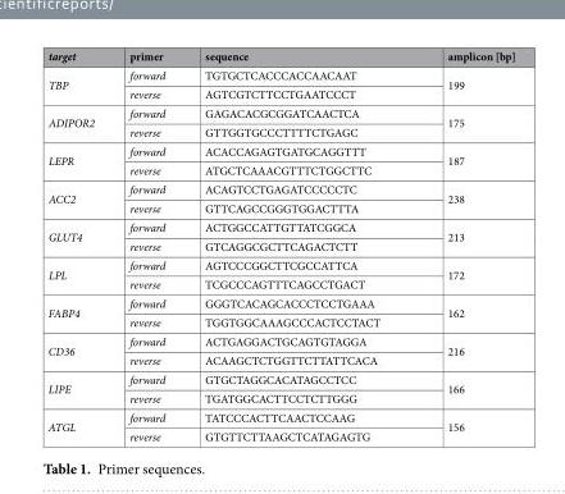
<table><thead><tr><td>target</td><td>primer</td><td>sequence</td><td>amplicon [bp]</td></tr></thead><tbody><tr><td rowspan="2">TBP</td><td>forward</td><td>TGTGCTCACCCACCAACAAT</td><td rowspan="2">199</td></tr><tr><td>reverse</td><td>AGTCGTCTTCCTGAATCCCT</td></tr><tr><td rowspan="2">ADIPOR2</td><td>forward</td><td>GAGACACGCGGATCAACTCA</td><td rowspan="2">175</td></tr><tr><td>reverse</td><td>GTTGGTGCCCTTTTCTGAGC</td></tr><tr><td rowspan="2">LEPR</td><td>forward</td><td>ACACCAGAGTGATGCAGGTTT</td><td rowspan="2">187</td></tr><tr><td>reverse</td><td>ATGCTCAAACGTTTCTGGCTTC</td></tr><tr><td rowspan="2">ACC2</td><td>forward</td><td>ACAGTCCTGAGATCCCCCTC</td><td rowspan="2">238</td></tr><tr><td>reverse</td><td>GTTCAGCCGGGTGGACTTTA</td></tr><tr><td rowspan="2">GLUT4</td><td>forward</td><td>ACTGGCCATTGTTATCGGCA</td><td rowspan="2">213</td></tr><tr><td>reverse</td><td>GTCAGGCGCTTCAGACTCTT</td></tr><tr><td rowspan="2">LPL</td><td>forward</td><td>AGTCCCGGCTTCGCCATTCA</td><td rowspan="2">172</td></tr><tr><td>reverse</td><td>TCGCCCAGTTTCAGCCTGACT</td></tr><tr><td rowspan="2">FABP4</td><td>forward</td><td>GGGTCACAGCACCCTCCTGAAA</td><td rowspan="2">162</td></tr><tr><td>reverse</td><td>TGGTGGCAAAGCCCACTCCTACT</td></tr><tr><td rowspan="2">CD36</td><td>forward</td><td>ACTGAGGACTGCAGTGTAGGA</td><td rowspan="2">216</td></tr><tr><td>reverse</td><td>ACAAGCTCTGGTTCTTATTCACA</td></tr><tr><td rowspan="2">LIPE</td><td>forward</td><td>GTGCTAGGCACATAGCCTCC</td><td rowspan="2">166</td></tr><tr><td>reverse</td><td>TGATGGCACTTCCTCTTGGG</td></tr><tr><td rowspan="2">ATGL</td><td>forward</td><td>TATCCCACTTCAACTCCAAG</td><td rowspan="2">156</td></tr><tr><td>reverse</td><td>GTGTTCTTAAGCTCATAGAGTG</td></tr></tbody></table>